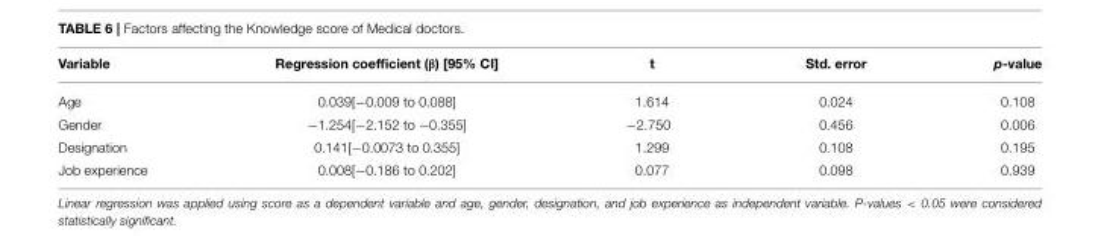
<table><thead><tr><td>Variable</td><td>Regression coefficient (β) [95% CI]</td><td>t</td><td>Std. error</td><td>p-value</td></tr></thead><tbody><tr><td>Age</td><td>0.039[−0.009 to 0.088]</td><td>1.614</td><td>0.024</td><td>0.108</td></tr><tr><td>Gender</td><td>−1.254[−2.152 to −0.355]</td><td>−2.750</td><td>0.456</td><td>0.006</td></tr><tr><td>Designation</td><td>0.141[−0.0073 to 0.355]</td><td>1.299</td><td>0.108</td><td>0.195</td></tr><tr><td>Job experience</td><td>0.008[−0.186 to 0.202]</td><td>0.077</td><td>0.098</td><td>0.939</td></tr></tbody></table>